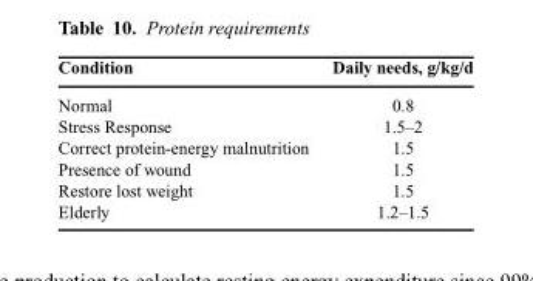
<table><thead><tr><td>Condition</td><td>Daily needs, g/kg/d</td></tr></thead><tbody><tr><td>Normal</td><td>0.8</td></tr><tr><td>Stress Response</td><td>1.5–2</td></tr><tr><td>Correct protein-energy malnutrition</td><td>1.5</td></tr><tr><td>Presence of wound</td><td>1.5</td></tr><tr><td>Restore lost weight</td><td>1.5</td></tr><tr><td>Elderly</td><td>1.2–1.5</td></tr></tbody></table>